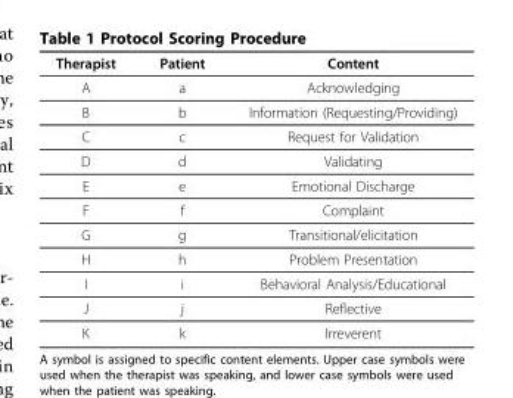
<table><thead><tr><td>Therapist</td><td>Patient</td><td>Content</td></tr></thead><tbody><tr><td>A</td><td>a</td><td>Acknowledging</td></tr><tr><td>B</td><td>b</td><td>Information (Requesting/Providing)</td></tr><tr><td>C</td><td>c</td><td>Request for Validation</td></tr><tr><td>D</td><td>d</td><td>Validating</td></tr><tr><td>E</td><td>e</td><td>Emotional Discharge</td></tr><tr><td>F</td><td>f</td><td>Complaint</td></tr><tr><td>G</td><td>g</td><td>Transitional/elicitation</td></tr><tr><td>H</td><td>h</td><td>Problem Presentation</td></tr><tr><td>I</td><td>i</td><td>Behavioral Analysis/Educational</td></tr><tr><td>J</td><td>j</td><td>Reflective</td></tr><tr><td>K</td><td>k</td><td>Irreverent</td></tr></tbody></table>